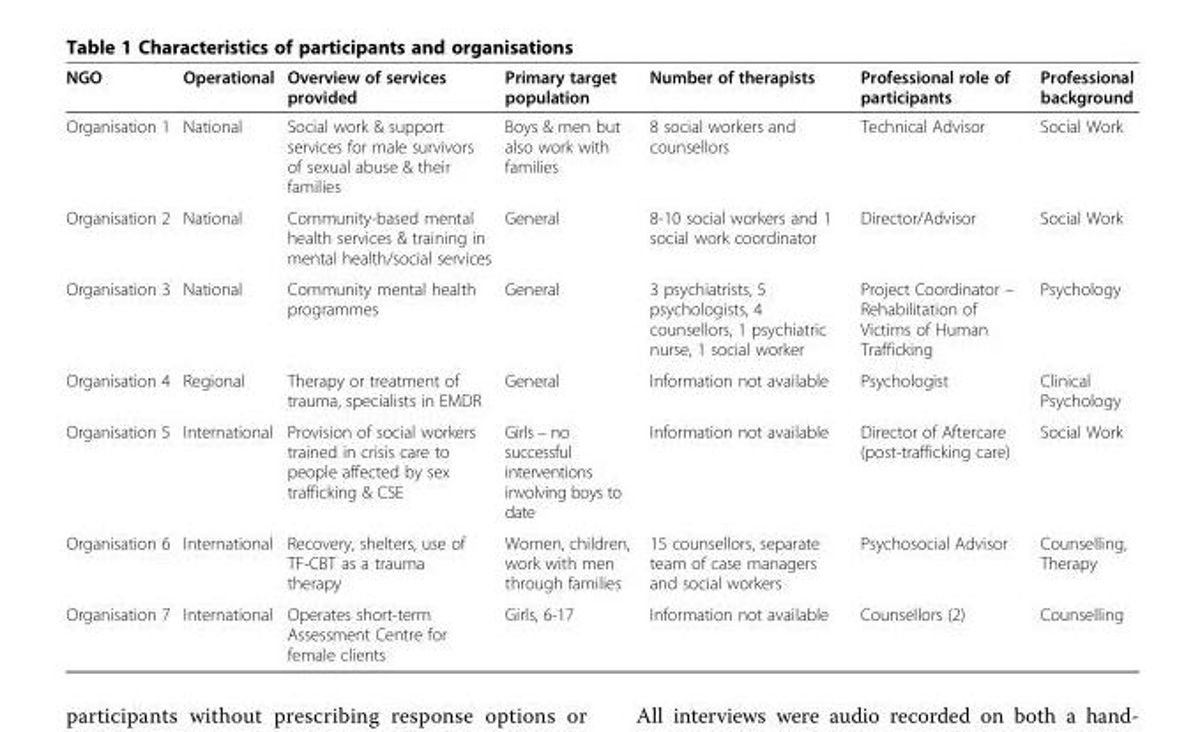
<table><thead><tr><td>NGO</td><td>Operational</td><td>Overview of services provided</td><td>Primary target population</td><td>Number of therapists</td><td>Professional role of participants</td><td>Professional background</td></tr></thead><tbody><tr><td>Organisation 1</td><td>National</td><td>Social work &amp; support services for male survivors of sexual abuse &amp; their families</td><td>Boys &amp; men but also work with families</td><td>8 social workers and counsellors</td><td>Technical Advisor</td><td>Social Work</td></tr><tr><td>Organisation 2</td><td>National</td><td>Community-based mental health services &amp; training in mental health/social services</td><td>General</td><td>8-10 social workers and 1 social work coordinator</td><td>Director/Advisor</td><td>Social Work</td></tr><tr><td>Organisation 3</td><td>National</td><td>Community mental health programmes</td><td>General</td><td>3 psychiatrists, 5 psychologists, 4 counsellors, 1 psychiatric nurse, 1 social worker</td><td>Project Coordinator – Rehabilitation of Victims of Human Trafficking</td><td>Psychology</td></tr><tr><td>Organisation 4</td><td>Regional</td><td>Therapy or treatment of trauma, specialists in EMDR</td><td>General</td><td>Information not available</td><td>Psychologist</td><td>Clinical Psychology</td></tr><tr><td>Organisation 5</td><td>International</td><td>Provision of social workers trained in crisis care to people affected by sex trafficking &amp; CSE</td><td>Girls – no successful interventions involving boys to date</td><td>Information not available</td><td>Director of Aftercare (post-trafficking care)</td><td>Social Work</td></tr><tr><td>Organisation 6</td><td>International</td><td>Recovery, shelters, use of TF-CBT as a trauma therapy</td><td>Women, children, work with men through families</td><td>15 counsellors, separate team of case managers and social workers</td><td>Psychosocial Advisor</td><td>Counselling, Therapy</td></tr><tr><td>Organisation 7</td><td>International</td><td>Operates short-term Assessment Centre for female clients</td><td>Girls, 6-17</td><td>Information not available</td><td>Counsellors (2)</td><td>Counselling</td></tr></tbody></table>